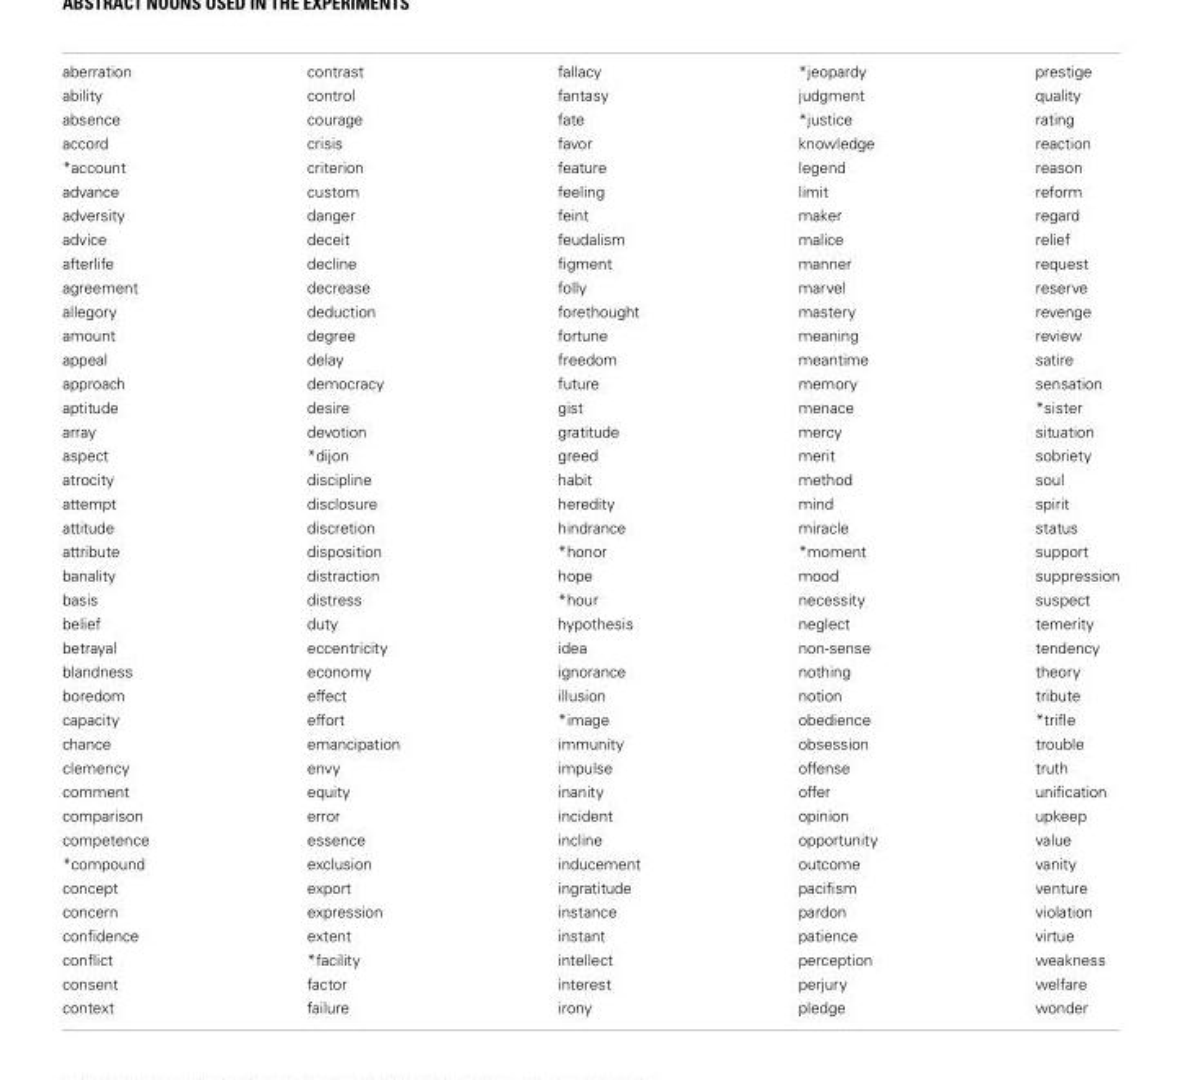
<table><tbody><tr><td>aberration</td><td>contrast</td><td>fallacy</td><td>*jeopardy</td><td>prestige</td></tr><tr><td>ability</td><td>control</td><td>fantasy</td><td>judgment</td><td>quality</td></tr><tr><td>absence</td><td>courage</td><td>fate</td><td>*justice</td><td>rating</td></tr><tr><td>accord</td><td>crisis</td><td>favor</td><td>knowledge</td><td>reaction</td></tr><tr><td>*account</td><td>criterion</td><td>feature</td><td>legend</td><td>reason</td></tr><tr><td>advance</td><td>custom</td><td>feeling</td><td>limit</td><td>reform</td></tr><tr><td>adversity</td><td>danger</td><td>feint</td><td>maker</td><td>regard</td></tr><tr><td>advice</td><td>deceit</td><td>feudalism</td><td>malice</td><td>relief</td></tr><tr><td>afterlife</td><td>decline</td><td>figment</td><td>manner</td><td>request</td></tr><tr><td>agreement</td><td>decrease</td><td>folly</td><td>marvel</td><td>reserve</td></tr><tr><td>allegory</td><td>deduction</td><td>forethought</td><td>mastery</td><td>revenge</td></tr><tr><td>amount</td><td>degree</td><td>fortune</td><td>meaning</td><td>review</td></tr><tr><td>appeal</td><td>delay</td><td>freedom</td><td>meantime</td><td>satire</td></tr><tr><td>approach</td><td>democracy</td><td>future</td><td>memory</td><td>sensation</td></tr><tr><td>aptitude</td><td>desire</td><td>gist</td><td>menace</td><td>*sister</td></tr><tr><td>array</td><td>devotion</td><td>gratitude</td><td>mercy</td><td>situation</td></tr><tr><td>aspect</td><td>*dijon</td><td>greed</td><td>merit</td><td>sobriety</td></tr><tr><td>atrocity</td><td>discipline</td><td>habit</td><td>method</td><td>soul</td></tr><tr><td>attempt</td><td>disclosure</td><td>heredity</td><td>mind</td><td>spirit</td></tr><tr><td>attitude</td><td>discretion</td><td>hindrance</td><td>miracle</td><td>status</td></tr><tr><td>attribute</td><td>disposition</td><td>*honor</td><td>*moment</td><td>support</td></tr><tr><td>banality</td><td>distraction</td><td>hope</td><td>mood</td><td>suppression</td></tr><tr><td>basis</td><td>distress</td><td>*hour</td><td>necessity</td><td>suspect</td></tr><tr><td>belief</td><td>duty</td><td>hypothesis</td><td>neglect</td><td>temerity</td></tr><tr><td>betrayal</td><td>eccentricity</td><td>idea</td><td>non-sense</td><td>tendency</td></tr><tr><td>blandness</td><td>economy</td><td>ignorance</td><td>nothing</td><td>theory</td></tr><tr><td>boredom</td><td>effect</td><td>illusion</td><td>notion</td><td>tribute</td></tr><tr><td>capacity</td><td>effort</td><td>*image</td><td>obedience</td><td>*trifle</td></tr><tr><td>chance</td><td>emancipation</td><td>immunity</td><td>obsession</td><td>trouble</td></tr><tr><td>clemency</td><td>envy</td><td>impulse</td><td>offense</td><td>truth</td></tr><tr><td>comment</td><td>equity</td><td>inanity</td><td>offer</td><td>unification</td></tr><tr><td>comparison</td><td>error</td><td>incident</td><td>opinion</td><td>upkeep</td></tr><tr><td>competence</td><td>essence</td><td>incline</td><td>opportunity</td><td>value</td></tr><tr><td>*compound</td><td>exclusion</td><td>inducement</td><td>outcome</td><td>vanity</td></tr><tr><td>concept</td><td>export</td><td>ingratitude</td><td>pacifism</td><td>venture</td></tr><tr><td>concern</td><td>expression</td><td>instance</td><td>pardon</td><td>violation</td></tr><tr><td>confidence</td><td>extent</td><td>instant</td><td>patience</td><td>virtue</td></tr><tr><td>conflict</td><td>*facility</td><td>intellect</td><td>perception</td><td>weakness</td></tr><tr><td>consent</td><td>factor</td><td>interest</td><td>perjury</td><td>welfare</td></tr><tr><td>context</td><td>failure</td><td>irony</td><td>pledge</td><td>wonder</td></tr></tbody></table>